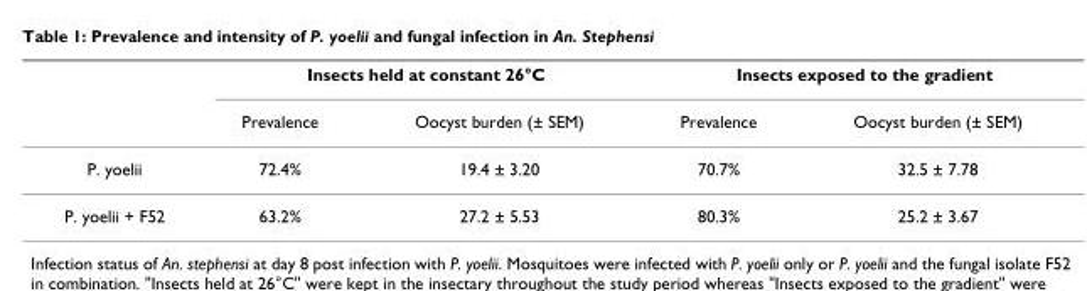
<table><thead><tr><td rowspan="2"></td><td colspan="2">Insects held at constant 26°C</td><td colspan="2">Insects exposed to the gradient</td></tr><tr><td>Prevalence</td><td>Oocyst burden (± SEM)</td><td>Prevalence</td><td>Oocyst burden (± SEM)</td></tr></thead><tbody><tr><td>P. yoelii</td><td>72.4%</td><td>19.4 ± 3.20</td><td>70.7%</td><td>32.5 ± 7.78</td></tr><tr><td>P. yoelii + F52</td><td>63.2%</td><td>27.2 ± 5.53</td><td>80.3%</td><td>25.2 ± 3.67</td></tr></tbody></table>